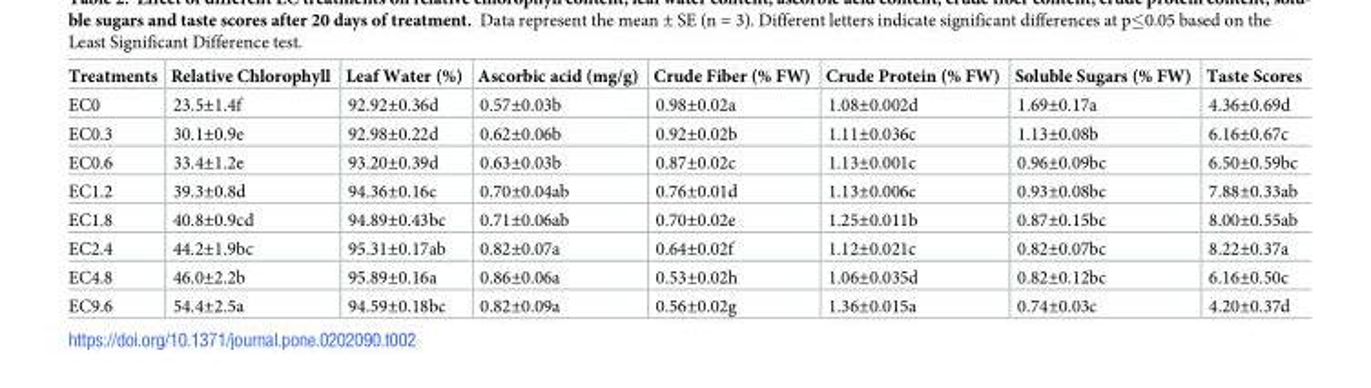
<table><thead><tr><td>Treatments</td><td>Relative Chlorophyll</td><td>Leaf Water (%)</td><td>Ascorbic acid (mg/g)</td><td>Crude Fiber (% FW)</td><td>Crude Protein (% FW)</td><td>Soluble Sugars (% FW)</td><td>Taste Scores</td></tr></thead><tbody><tr><td>EC0</td><td>23.5±1.4f</td><td>92.92±0.36d</td><td>0.57±0.03b</td><td>0.98±0.02a</td><td>1.08±0.002d</td><td>1.69±0.17a</td><td>4.36±0.69d</td></tr><tr><td>EC0.3</td><td>30.1±0.9e</td><td>92.98±0.22d</td><td>0.62±0.06b</td><td>0.92±0.02b</td><td>1.11±0.036c</td><td>1.13±0.08b</td><td>6.16±0.67c</td></tr><tr><td>EC0.6</td><td>33.4±1.2e</td><td>93.20±0.39d</td><td>0.63±0.03b</td><td>0.87±0.02c</td><td>1.13±0.001c</td><td>0.96±0.09bc</td><td>6.50±0.59bc</td></tr><tr><td>EC1.2</td><td>39.3±0.8d</td><td>94.36±0.16c</td><td>0.70±0.04ab</td><td>0.76±0.01d</td><td>1.13±0.006c</td><td>0.93±0.08bc</td><td>7.88±0.33ab</td></tr><tr><td>EC1.8</td><td>40.8±0.9cd</td><td>94.89±0.43bc</td><td>0.71±0.06ab</td><td>0.70±0.02e</td><td>1.25±0.011b</td><td>0.87±0.15bc</td><td>8.00±0.55ab</td></tr><tr><td>EC2.4</td><td>44.2±1.9bc</td><td>95.31±0.17ab</td><td>0.82±0.07a</td><td>0.64±0.02f</td><td>1.12±0.021c</td><td>0.82±0.07bc</td><td>8.22±0.37a</td></tr><tr><td>EC4.8</td><td>46.0±2.2b</td><td>95.89±0.16a</td><td>0.86±0.06a</td><td>0.53±0.02h</td><td>1.06±0.035d</td><td>0.82±0.12bc</td><td>6.16±0.50c</td></tr><tr><td>EC9.6</td><td>54.4±2.5a</td><td>94.59±0.18bc</td><td>0.82±0.09a</td><td>0.56±0.02g</td><td>1.36±0.015a</td><td>0.74±0.03c</td><td>4.20±0.37d</td></tr></tbody></table>